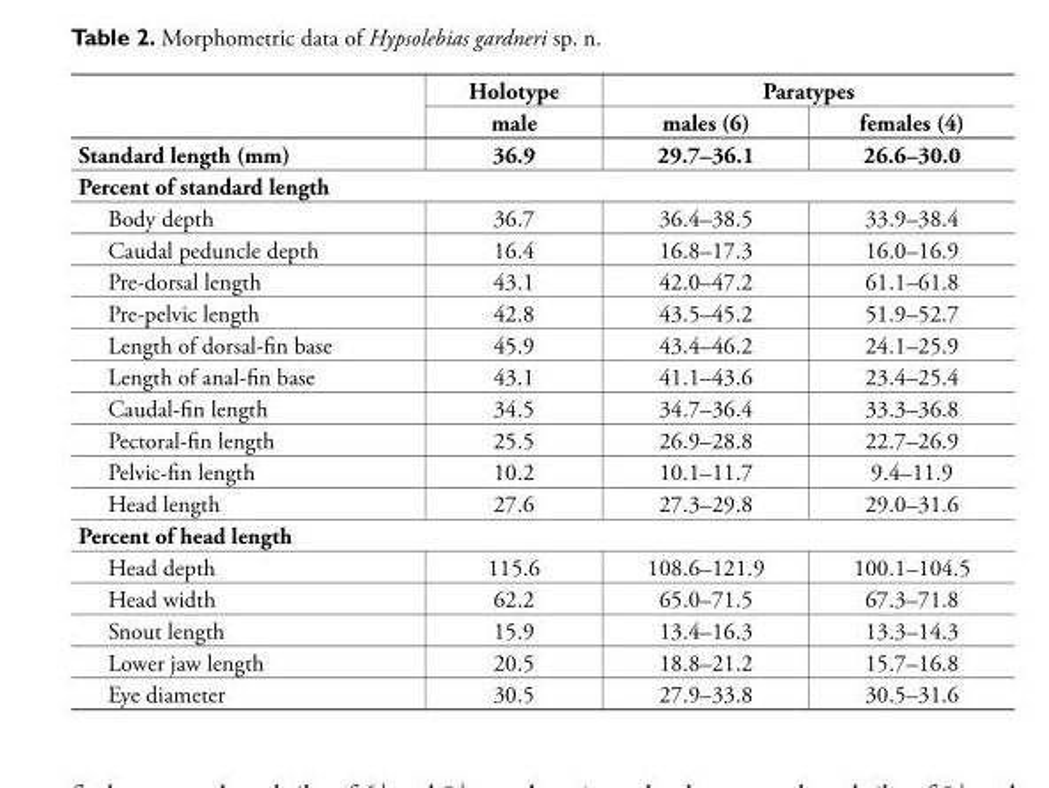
<table><thead><tr><td rowspan="2"></td><td rowspan="2">Holotype male</td><td colspan="2">Paratypes</td></tr><tr><td>males (6)</td><td>females (4)</td></tr></thead><tbody><tr><td>Standard length (mm)</td><td>36.9</td><td>29.7–36.1</td><td>26.6–30.0</td></tr><tr><td colspan="4">Percent of standard length</td></tr><tr><td>Body depth</td><td>36.7</td><td>36.4–38.5</td><td>33.9–38.4</td></tr><tr><td>Caudal peduncle depth</td><td>16.4</td><td>16.8–17.3</td><td>16.0–16.9</td></tr><tr><td>Pre-dorsal length</td><td>43.1</td><td>42.0–47.2</td><td>61.1–61.8</td></tr><tr><td>Pre-pelvic length</td><td>42.8</td><td>43.5–45.2</td><td>51.9–52.7</td></tr><tr><td>Length of dorsal-fin base</td><td>45.9</td><td>43.4–46.2</td><td>24.1–25.9</td></tr><tr><td>Length of anal-fin base</td><td>43.1</td><td>41.1–43.6</td><td>23.4–25.4</td></tr><tr><td>Caudal-fin length</td><td>34.5</td><td>34.7–36.4</td><td>33.3–36.8</td></tr><tr><td>Pectoral-fin length</td><td>25.5</td><td>26.9–28.8</td><td>22.7–26.9</td></tr><tr><td>Pelvic-fin length</td><td>10.2</td><td>10.1–11.7</td><td>9.4–11.9</td></tr><tr><td>Head length</td><td>27.6</td><td>27.3–29.8</td><td>29.0–31.6</td></tr><tr><td colspan="4">Percent of head length</td></tr><tr><td>Head depth</td><td>115.6</td><td>108.6–121.9</td><td>100.1–104.5</td></tr><tr><td>Head width</td><td>62.2</td><td>65.0–71.5</td><td>67.3–71.8</td></tr><tr><td>Snout length</td><td>15.9</td><td>13.4–16.3</td><td>13.3–14.3</td></tr><tr><td>Lower jaw length</td><td>20.5</td><td>18.8–21.2</td><td>15.7–16.8</td></tr><tr><td>Eye diameter</td><td>30.5</td><td>27.9–33.8</td><td>30.5–31.6</td></tr></tbody></table>